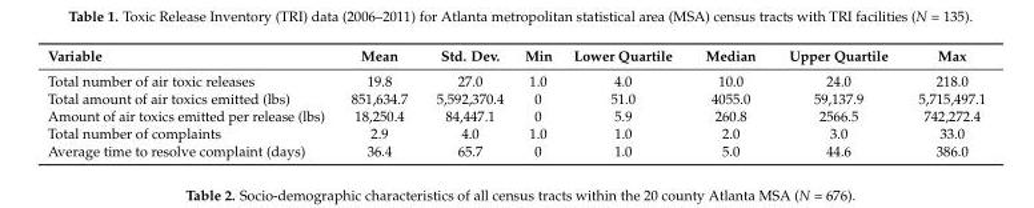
<table><thead><tr><td>Variable</td><td>Mean</td><td>Std. Dev.</td><td>Min</td><td>Lower Quartile</td><td>Median</td><td>Upper Quartile</td><td>Max</td></tr></thead><tbody><tr><td>Total number of air toxic releases</td><td>19.8</td><td>27.0</td><td>1.0</td><td>4.0</td><td>10.0</td><td>24.0</td><td>218.0</td></tr><tr><td>Total amount of air toxics emitted (lbs)</td><td>851,634.7</td><td>5,592,370.4</td><td>0</td><td>51.0</td><td>4055.0</td><td>59,137.9</td><td>5,715,497.1</td></tr><tr><td>Amount of air toxics emitted per release (lbs)</td><td>18,250.4</td><td>84,447.1</td><td>0</td><td>5.9</td><td>260.8</td><td>2566.5</td><td>742,272.4</td></tr><tr><td>Total number of complaints</td><td>2.9</td><td>4.0</td><td>1.0</td><td>1.0</td><td>2.0</td><td>3.0</td><td>33.0</td></tr><tr><td>Average time to resolve complaint (days)</td><td>36.4</td><td>65.7</td><td>0</td><td>1.0</td><td>5.0</td><td>44.6</td><td>386.0</td></tr></tbody></table>